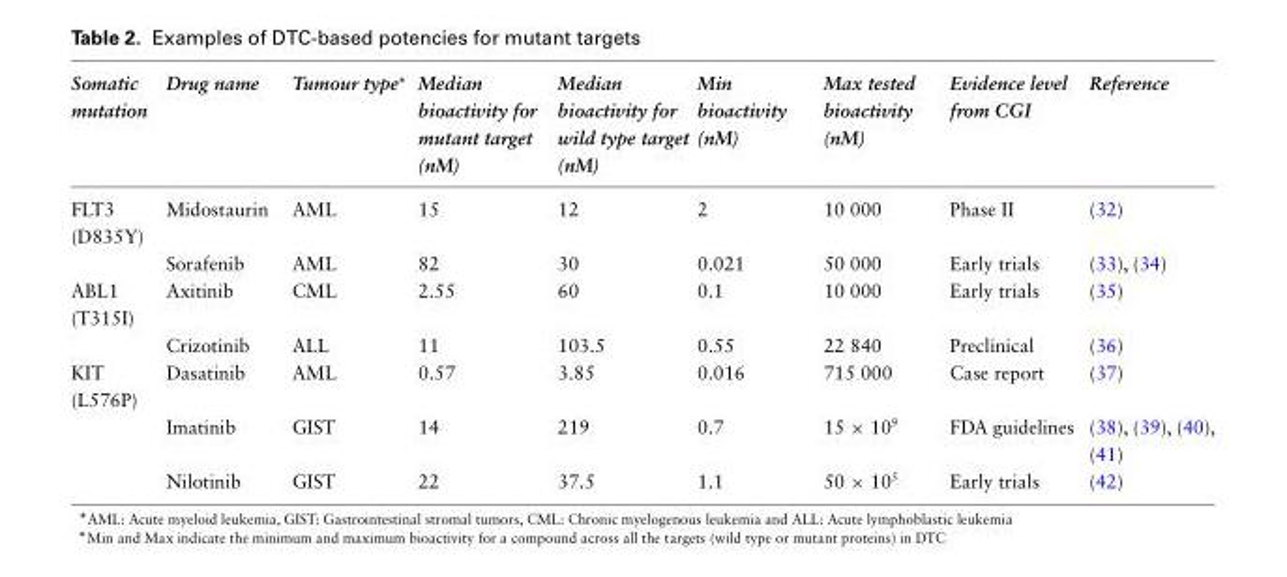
<table><thead><tr><td>Somatic mutation</td><td>Drug name</td><td>Tumour type∗</td><td>Median bioactivity for mutant target (nM)</td><td>Median bioactivity for wild type target (nM)</td><td>Min bioactivity (nM)</td><td>Max tested bioactivity (nM)</td><td>Evidence level from CGI</td><td>Reference</td></tr></thead><tbody><tr><td rowspan="2">FLT3 (D835Y)</td><td>Midostaurin</td><td>AML</td><td>15</td><td>12</td><td>2</td><td>10 000</td><td>Phase II</td><td>(32)</td></tr><tr><td>Sorafenib</td><td>AML</td><td>82</td><td>30</td><td>0.021</td><td>50 000</td><td>Early trials</td><td>(33), (34)</td></tr><tr><td rowspan="2">ABL1 (T315I)</td><td>Axitinib</td><td>CML</td><td>2.55</td><td>60</td><td>0.1</td><td>10 000</td><td>Early trials</td><td>(35)</td></tr><tr><td>Crizotinib</td><td>ALL</td><td>11</td><td>103.5</td><td>0.55</td><td>22 840</td><td>Preclinical</td><td>(36)</td></tr><tr><td rowspan="3">KIT (L576P)</td><td>Dasatinib</td><td>AML</td><td>0.57</td><td>3.85</td><td>0.016</td><td>715 000</td><td>Case report</td><td>(37)</td></tr><tr><td>Imatinib</td><td>GIST</td><td>14</td><td>219</td><td>0.7</td><td>15 × 10<sup>9</sup></td><td>FDA guidelines</td><td>(38), (39), (40), (41)</td></tr><tr><td>Nilotinib</td><td>GIST</td><td>22</td><td>37.5</td><td>1.1</td><td>50 × 10<sup>5</sup></td><td>Early trials</td><td>(42)</td></tr></tbody></table>